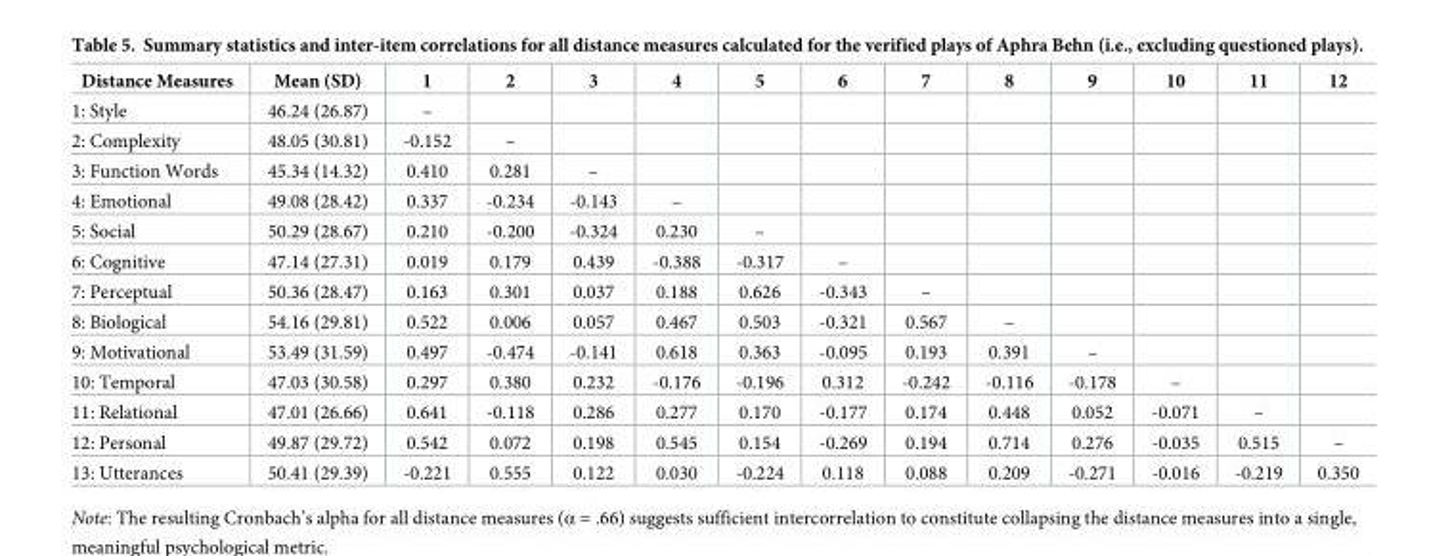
<table><thead><tr><td>Distance Measures</td><td>Mean (SD)</td><td>1</td><td>2</td><td>3</td><td>4</td><td>5</td><td>6</td><td>7</td><td>8</td><td>9</td><td>10</td><td>11</td><td>12</td></tr></thead><tbody><tr><td>1: Style</td><td>46.24 (26.87)</td><td>–</td><td></td><td></td><td></td><td></td><td></td><td></td><td></td><td></td><td></td><td></td><td></td></tr><tr><td>2: Complexity</td><td>48.05 (30.81)</td><td>-0.152</td><td>–</td><td></td><td></td><td></td><td></td><td></td><td></td><td></td><td></td><td></td><td></td></tr><tr><td>3: Function Words</td><td>45.34 (14.32)</td><td>0.410</td><td>0.281</td><td>–</td><td></td><td></td><td></td><td></td><td></td><td></td><td></td><td></td><td></td></tr><tr><td>4: Emotional</td><td>49.08 (28.42)</td><td>0.337</td><td>-0.234</td><td>-0.143</td><td>–</td><td></td><td></td><td></td><td></td><td></td><td></td><td></td><td></td></tr><tr><td>5: Social</td><td>50.29 (28.67)</td><td>0.210</td><td>-0.200</td><td>-0.324</td><td>0.230</td><td>–</td><td></td><td></td><td></td><td></td><td></td><td></td><td></td></tr><tr><td>6: Cognitive</td><td>47.14 (27.31)</td><td>0.019</td><td>0.179</td><td>0.439</td><td>-0.388</td><td>-0.317</td><td>–</td><td></td><td></td><td></td><td></td><td></td><td></td></tr><tr><td>7: Perceptual</td><td>50.36 (28.47)</td><td>0.163</td><td>0.301</td><td>0.037</td><td>0.188</td><td>0.626</td><td>-0.343</td><td>–</td><td></td><td></td><td></td><td></td><td></td></tr><tr><td>8: Biological</td><td>54.16 (29.81)</td><td>0.522</td><td>0.006</td><td>0.057</td><td>0.467</td><td>0.503</td><td>-0.321</td><td>0.567</td><td>–</td><td></td><td></td><td></td><td></td></tr><tr><td>9: Motivational</td><td>53.49 (31.59)</td><td>0.497</td><td>-0.474</td><td>-0.141</td><td>0.618</td><td>0.363</td><td>-0.095</td><td>0.193</td><td>0.391</td><td>–</td><td></td><td></td><td></td></tr><tr><td>10: Temporal</td><td>47.03 (30.58)</td><td>0.297</td><td>0.380</td><td>0.232</td><td>-0.176</td><td>-0.196</td><td>0.312</td><td>-0.242</td><td>-0.116</td><td>-0.178</td><td>–</td><td></td><td></td></tr><tr><td>11: Relational</td><td>47.01 (26.66)</td><td>0.641</td><td>-0.118</td><td>0.286</td><td>0.277</td><td>0.170</td><td>-0.177</td><td>0.174</td><td>0.448</td><td>0.052</td><td>-0.071</td><td>–</td><td></td></tr><tr><td>12: Personal</td><td>49.87 (29.72)</td><td>0.542</td><td>0.072</td><td>0.198</td><td>0.545</td><td>0.154</td><td>-0.269</td><td>0.194</td><td>0.714</td><td>0.276</td><td>-0.035</td><td>0.515</td><td>–</td></tr><tr><td>13: Utterances</td><td>50.41 (29.39)</td><td>-0.221</td><td>0.555</td><td>0.122</td><td>0.030</td><td>-0.224</td><td>0.118</td><td>0.088</td><td>0.209</td><td>-0.271</td><td>-0.016</td><td>-0.219</td><td>0.350</td></tr></tbody></table>